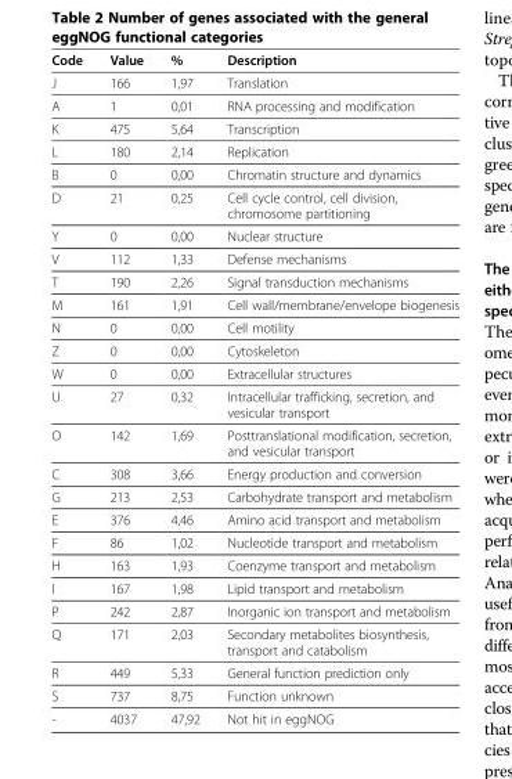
<table><thead><tr><td>Code</td><td>Value</td><td>%</td><td>Description</td></tr></thead><tbody><tr><td>J</td><td>166</td><td>1,97</td><td>Translation</td></tr><tr><td>A</td><td>1</td><td>0,01</td><td>RNA processing and modification</td></tr><tr><td>K</td><td>475</td><td>5,64</td><td>Transcription</td></tr><tr><td>L</td><td>180</td><td>2,14</td><td>Replication</td></tr><tr><td>B</td><td>0</td><td>0,00</td><td>Chromatin structure and dynamics</td></tr><tr><td>D</td><td>21</td><td>0,25</td><td>Cell cycle control, cell division, chromosome partitioning</td></tr><tr><td>Y</td><td>0</td><td>0,00</td><td>Nuclear structure</td></tr><tr><td>V</td><td>112</td><td>1,33</td><td>Defense mechanisms</td></tr><tr><td>T</td><td>190</td><td>2,26</td><td>Signal transduction mechanisms</td></tr><tr><td>M</td><td>161</td><td>1,91</td><td>Cell wall/membrane/envelope biogenesis</td></tr><tr><td>N</td><td>0</td><td>0,00</td><td>Cell motility</td></tr><tr><td>Z</td><td>0</td><td>0,00</td><td>Cytoskeleton</td></tr><tr><td>W</td><td>0</td><td>0,00</td><td>Extracellular structures</td></tr><tr><td>U</td><td>27</td><td>0,32</td><td>Intracellular trafficking, secretion, and vesicular transport</td></tr><tr><td>O</td><td>142</td><td>1,69</td><td>Posttranslational modification, secretion, and vesicular transport</td></tr><tr><td>C</td><td>308</td><td>3,66</td><td>Energy production and conversion</td></tr><tr><td>G</td><td>213</td><td>2,53</td><td>Carbohydrate transport and metabolism</td></tr><tr><td>E</td><td>376</td><td>4,46</td><td>Amino acid transport and metabolism</td></tr><tr><td>F</td><td>86</td><td>1,02</td><td>Nucleotide transport and metabolism</td></tr><tr><td>H</td><td>163</td><td>1,93</td><td>Coenzyme transport and metabolism</td></tr><tr><td>I</td><td>167</td><td>1,98</td><td>Lipid transport and metabolism</td></tr><tr><td>P</td><td>242</td><td>2,87</td><td>Inorganic ion transport and metabolism</td></tr><tr><td>Q</td><td>171</td><td>2,03</td><td>Secondary metabolites biosynthesis, transport and catabolism</td></tr><tr><td>R</td><td>449</td><td>5,33</td><td>General function prediction only</td></tr><tr><td>S</td><td>737</td><td>8,75</td><td>Function unknown</td></tr><tr><td>-</td><td>4037</td><td>47,92</td><td>Not hit in eggNOG</td></tr></tbody></table>